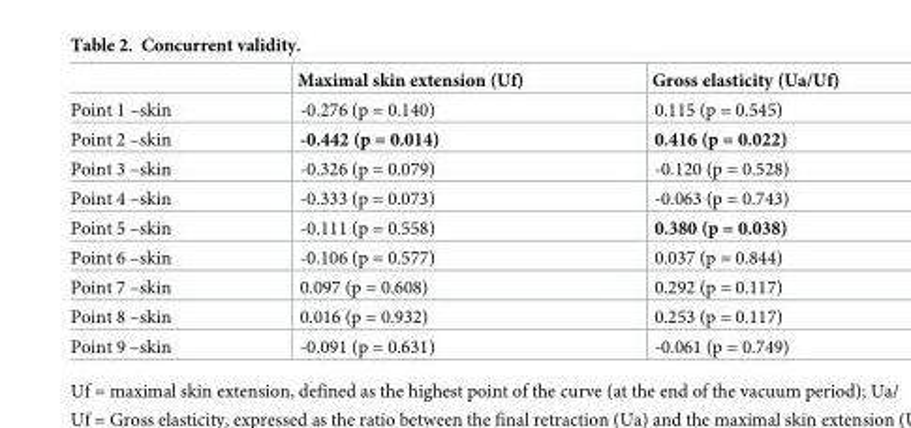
<table><thead><tr><td></td><td>Maximal skin extension (Uf)</td><td>Gross elasticity (Ua/Uf)</td></tr></thead><tbody><tr><td>Point 1 –skin</td><td>-0.276 (p = 0.140)</td><td>0.115 (p = 0.545)</td></tr><tr><td>Point 2 –skin</td><td>-0.442 (p = 0.014)</td><td>0.416 (p = 0.022)</td></tr><tr><td>Point 3 –skin</td><td>-0.326 (p = 0.079)</td><td>-0.120 (p = 0.528)</td></tr><tr><td>Point 4 –skin</td><td>-0.333 (p = 0.073)</td><td>-0.063 (p = 0.743)</td></tr><tr><td>Point 5 –skin</td><td>-0.111 (p = 0.558)</td><td>0.380 (p = 0.038)</td></tr><tr><td>Point 6 –skin</td><td>-0.106 (p = 0.577)</td><td>0.037 (p = 0.844)</td></tr><tr><td>Point 7 –skin</td><td>0.097 (p = 0.608)</td><td>0.292 (p = 0.117)</td></tr><tr><td>Point 8 –skin</td><td>0.016 (p = 0.932)</td><td>0.253 (p = 0.117)</td></tr><tr><td>Point 9 –skin</td><td>-0.091 (p = 0.631)</td><td>-0.061 (p = 0.749)</td></tr></tbody></table>